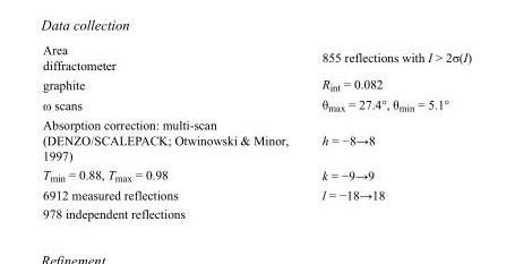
<table><tbody><tr><td>Area diffractometer</td><td>855 reflections with I &gt; 2σ(I)</td></tr><tr><td>graphite</td><td>R<sub>int</sub> = 0.082</td></tr><tr><td>ω scans</td><td>θ<sub>max</sub> = 27.4°, θ<sub>min</sub> = 5.1°</td></tr><tr><td>Absorption correction: multi-scan (DENZO/SCALEPACK; Otwinowski &amp; Minor, 1997)</td><td>h = −8→8</td></tr><tr><td>T<sub>min</sub> = 0.88, T<sub>max</sub> = 0.98</td><td>k = −9→9</td></tr><tr><td>6912 measured reflections</td><td>l = −18→18</td></tr><tr><td>978 independent reflections</td><td></td></tr></tbody></table>